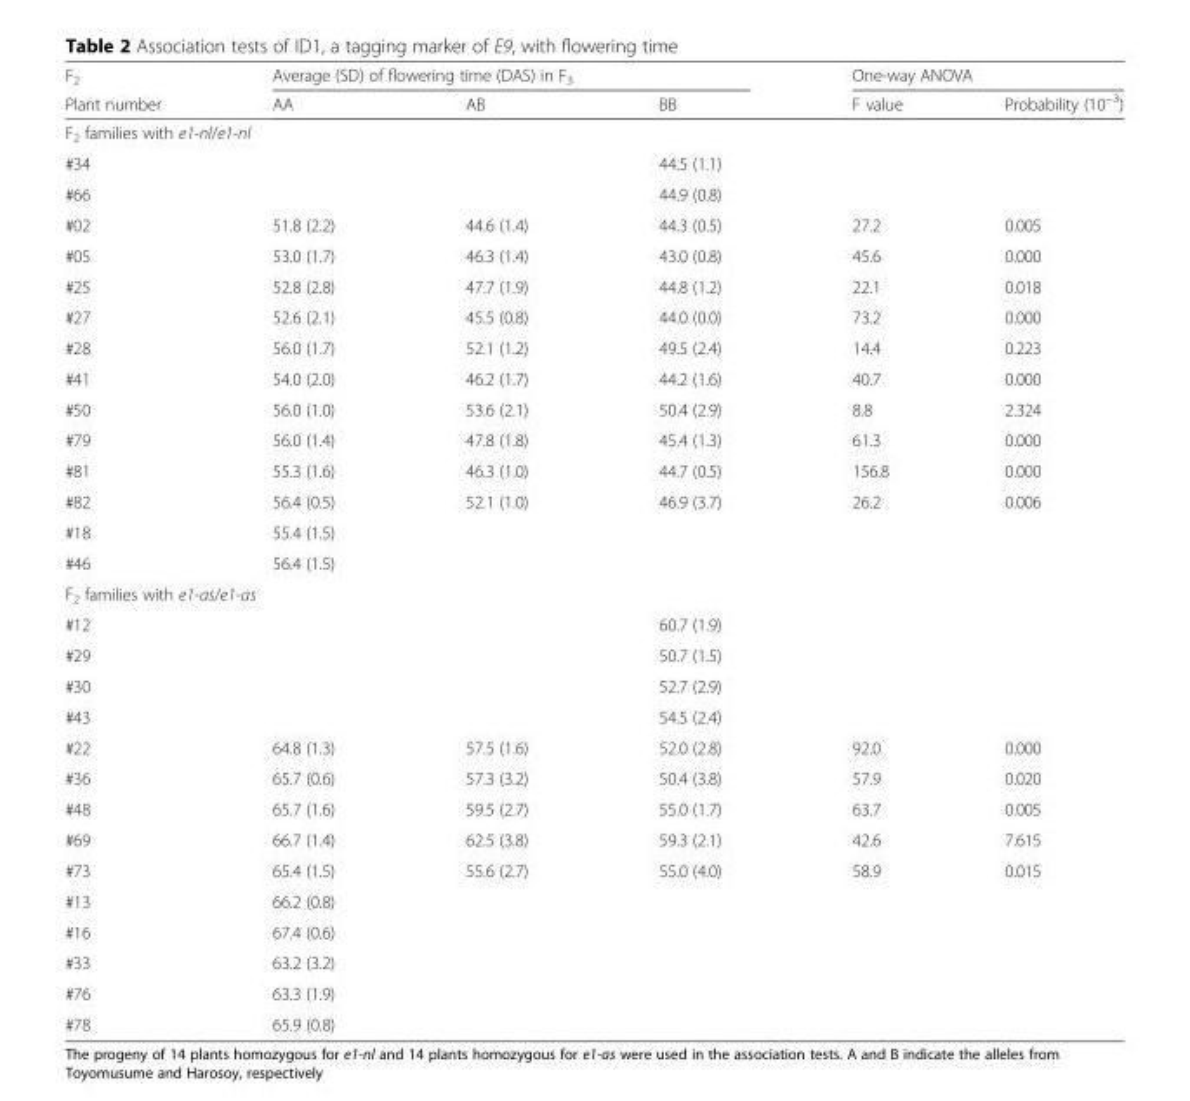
<table><thead><tr><td rowspan="2">F<sub>2</sub> Plant number</td><td colspan="3">Average (SD) of flowering time (DAS) in F<sub>3</sub></td><td colspan="2">One-way ANOVA</td></tr><tr><td>AA</td><td>AB</td><td>BB</td><td>F value</td><td>Probability (10<sup>−3</sup>)</td></tr></thead><tbody><tr><td colspan="6">F<sub>2</sub> families with e1-nl/e1-nl</td></tr><tr><td>#34</td><td></td><td></td><td>44.5 (1.1)</td><td></td><td></td></tr><tr><td>#66</td><td></td><td></td><td>44.9 (0.8)</td><td></td><td></td></tr><tr><td>#02</td><td>51.8 (2.2)</td><td>44.6 (1.4)</td><td>44.3 (0.5)</td><td>27.2</td><td>0.005</td></tr><tr><td>#05</td><td>53.0 (1.7)</td><td>46.3 (1.4)</td><td>43.0 (0.8)</td><td>45.6</td><td>0.000</td></tr><tr><td>#25</td><td>52.8 (2.8)</td><td>47.7 (1.9)</td><td>44.8 (1.2)</td><td>22.1</td><td>0.018</td></tr><tr><td>#27</td><td>52.6 (2.1)</td><td>45.5 (0.8)</td><td>44.0 (0.0)</td><td>73.2</td><td>0.000</td></tr><tr><td>#28</td><td>56.0 (1.7)</td><td>52.1 (1.2)</td><td>49.5 (2.4)</td><td>14.4</td><td>0.223</td></tr><tr><td>#41</td><td>54.0 (2.0)</td><td>46.2 (1.7)</td><td>44.2 (1.6)</td><td>40.7</td><td>0.000</td></tr><tr><td>#50</td><td>56.0 (1.0)</td><td>53.6 (2.1)</td><td>50.4 (2.9)</td><td>8.8</td><td>2.324</td></tr><tr><td>#79</td><td>56.0 (1.4)</td><td>47.8 (1.8)</td><td>45.4 (1.3)</td><td>61.3</td><td>0.000</td></tr><tr><td>#81</td><td>55.3 (1.6)</td><td>46.3 (1.0)</td><td>44.7 (0.5)</td><td>156.8</td><td>0.000</td></tr><tr><td>#82</td><td>56.4 (0.5)</td><td>52.1 (1.0)</td><td>46.9 (3.7)</td><td>26.2</td><td>0.006</td></tr><tr><td>#18</td><td>55.4 (1.5)</td><td></td><td></td><td></td><td></td></tr><tr><td>#46</td><td>56.4 (1.5)</td><td></td><td></td><td></td><td></td></tr><tr><td colspan="6">F<sub>2</sub> families with e1-as/e1-as</td></tr><tr><td>#12</td><td></td><td></td><td>60.7 (1.9)</td><td></td><td></td></tr><tr><td>#29</td><td></td><td></td><td>50.7 (1.5)</td><td></td><td></td></tr><tr><td>#30</td><td></td><td></td><td>52.7 (2.9)</td><td></td><td></td></tr><tr><td>#43</td><td></td><td></td><td>54.5 (2.4)</td><td></td><td></td></tr><tr><td>#22</td><td>64.8 (1.3)</td><td>57.5 (1.6)</td><td>52.0 (2.8)</td><td>92.0</td><td>0.000</td></tr><tr><td>#36</td><td>65.7 (0.6)</td><td>57.3 (3.2)</td><td>50.4 (3.8)</td><td>57.9</td><td>0.020</td></tr><tr><td>#48</td><td>65.7 (1.6)</td><td>59.5 (2.7)</td><td>55.0 (1.7)</td><td>63.7</td><td>0.005</td></tr><tr><td>#69</td><td>66.7 (1.4)</td><td>62.5 (3.8)</td><td>59.3 (2.1)</td><td>42.6</td><td>7.615</td></tr><tr><td>#73</td><td>65.4 (1.5)</td><td>55.6 (2.7)</td><td>55.0 (4.0)</td><td>58.9</td><td>0.015</td></tr><tr><td>#13</td><td>66.2 (0.8)</td><td></td><td></td><td></td><td></td></tr><tr><td>#16</td><td>67.4 (0.6)</td><td></td><td></td><td></td><td></td></tr><tr><td>#33</td><td>63.2 (3.2)</td><td></td><td></td><td></td><td></td></tr><tr><td>#76</td><td>63.3 (1.9)</td><td></td><td></td><td></td><td></td></tr><tr><td>#78</td><td>65.9 (0.8)</td><td></td><td></td><td></td><td></td></tr></tbody></table>